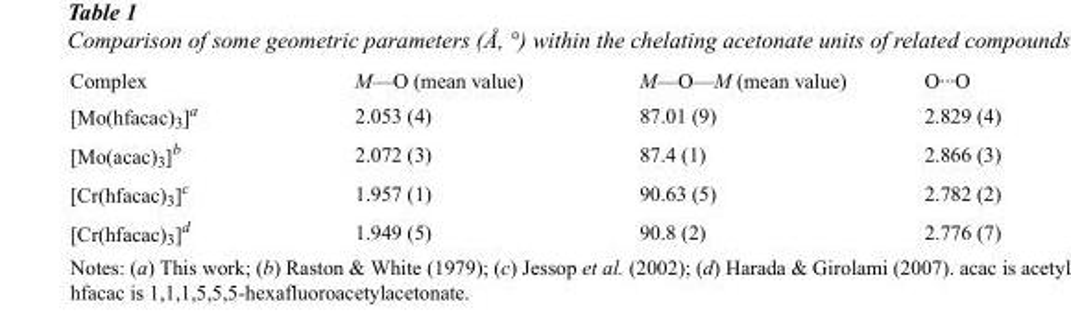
<table><thead><tr><td>Complex</td><td>M—O (mean value)</td><td>M—O—M (mean value)</td><td>O···O</td></tr></thead><tbody><tr><td>[Mo(hfacac)<sub>3</sub>]<sup>a</sup></td><td>2.053 (4)</td><td>87.01 (9)</td><td>2.829 (4)</td></tr><tr><td>[Mo(acac)<sub>3</sub>]<sup>b</sup></td><td>2.072 (3)</td><td>87.4 (1)</td><td>2.866 (3)</td></tr><tr><td>[Cr(hfacac)<sub>3</sub>]<sup>c</sup></td><td>1.957 (1)</td><td>90.63 (5)</td><td>2.782 (2)</td></tr><tr><td>[Cr(hfacac)<sub>3</sub>]<sup>d</sup></td><td>1.949 (5)</td><td>90.8 (2)</td><td>2.776 (7)</td></tr></tbody></table>